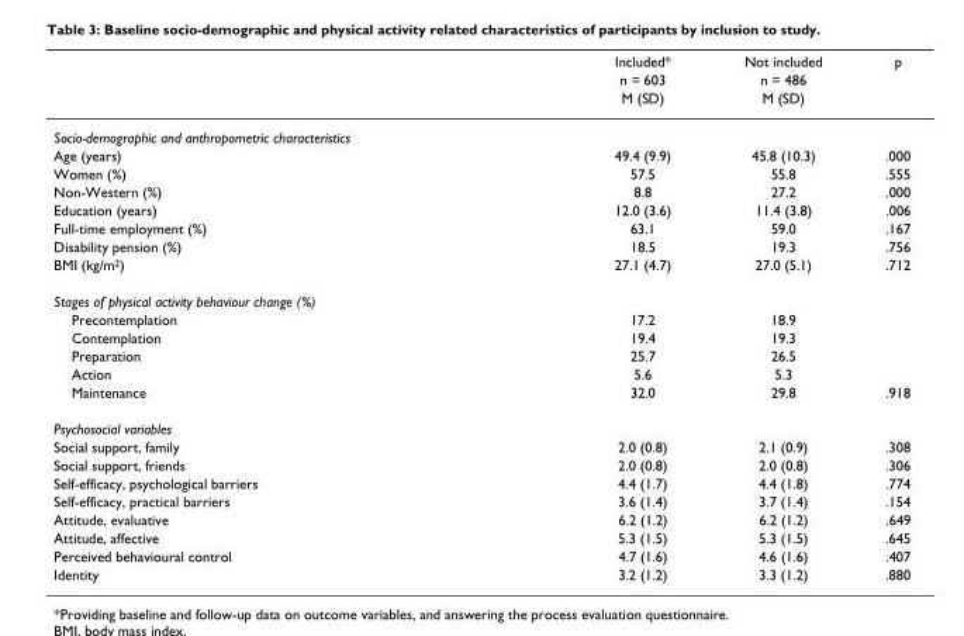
<table><thead><tr><td rowspan="3"></td><td rowspan="3">Included* n = 603 M (SD)</td><td rowspan="3">Not included n = 486 M (SD)</td><td rowspan="3">p</td></tr><tr></tr><tr></tr></thead><tbody><tr><td colspan="4">Socio-demographic and anthropometric characteristics</td></tr><tr><td>Age (years)</td><td>49.4 (9.9)</td><td>45.8 (10.3)</td><td>.000</td></tr><tr><td>Women (%)</td><td>57.5</td><td>55.8</td><td>.555</td></tr><tr><td>Non-Western (%)</td><td>8.8</td><td>27.2</td><td>.000</td></tr><tr><td>Education (years)</td><td>12.0 (3.6)</td><td>11.4 (3.8)</td><td>.006</td></tr><tr><td>Full-time employment (%)</td><td>63.1</td><td>59.0</td><td>.167</td></tr><tr><td>Disability pension (%)</td><td>18.5</td><td>19.3</td><td>.756</td></tr><tr><td>BMI (kg/m<sup>2</sup>)</td><td>27.1 (4.7)</td><td>27.0 (5.1)</td><td>.712</td></tr><tr><td colspan="4">Stages of physical activity behaviour change (%)</td></tr><tr><td>Precontemplation</td><td>17.2</td><td>18.9</td><td></td></tr><tr><td>Contemplation</td><td>19.4</td><td>19.3</td><td></td></tr><tr><td>Preparation</td><td>25.7</td><td>26.5</td><td></td></tr><tr><td>Action</td><td>5.6</td><td>5.3</td><td></td></tr><tr><td>Maintenance</td><td>32.0</td><td>29.8</td><td>.918</td></tr><tr><td colspan="4">Psychosocial variables</td></tr><tr><td>Social support, family</td><td>2.0 (0.8)</td><td>2.1 (0.9)</td><td>.308</td></tr><tr><td>Social support, friends</td><td>2.0 (0.8)</td><td>2.0 (0.8)</td><td>.306</td></tr><tr><td>Self-efficacy, psychological barriers</td><td>4.4 (1.7)</td><td>4.4 (1.8)</td><td>.774</td></tr><tr><td>Self-efficacy, practical barriers</td><td>3.6 (1.4)</td><td>3.7 (1.4)</td><td>.154</td></tr><tr><td>Attitude, evaluative</td><td>6.2 (1.2)</td><td>6.2 (1.2)</td><td>.649</td></tr><tr><td>Attitude, affective</td><td>5.3 (1.5)</td><td>5.3 (1.5)</td><td>.645</td></tr><tr><td>Perceived behavioural control</td><td>4.7 (1.6)</td><td>4.6 (1.6)</td><td>.407</td></tr><tr><td>Identity</td><td>3.2 (1.2)</td><td>3.3 (1.2)</td><td>.880</td></tr></tbody></table>